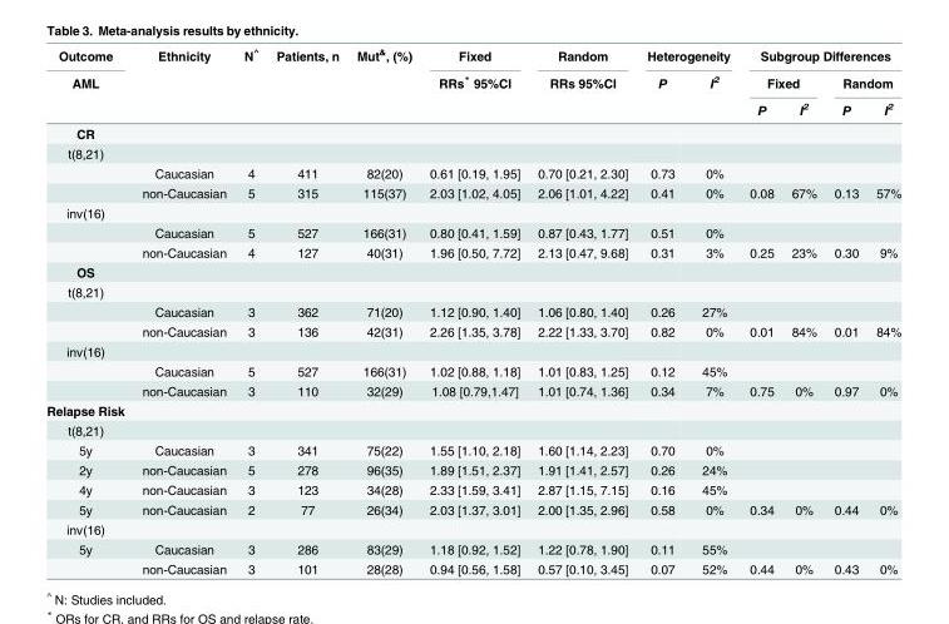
<table><thead><tr><td rowspan="3">Outcome AML</td><td rowspan="3">Ethnicity</td><td rowspan="3">N<sup>^</sup></td><td rowspan="3">Patients, n</td><td rowspan="3">Mut<sup>&amp;</sup>, (%)</td><td rowspan="3">Fixed RRs* 95%CI</td><td rowspan="3">Random RRs 95%CI</td><td colspan="2">Heterogeneity</td><td colspan="4">Subgroup Differences</td></tr><tr><td rowspan="2">P</td><td rowspan="2">I<sup>2</sup></td><td colspan="2">Fixed</td><td colspan="2">Random</td></tr><tr><td>P</td><td>I<sup>2</sup></td><td>P</td><td>I<sup>2</sup></td></tr></thead><tbody><tr><td colspan="13">CR</td></tr><tr><td colspan="13">t(8,21)</td></tr><tr><td></td><td>Caucasian</td><td>4</td><td>411</td><td>82(20)</td><td>0.61 [0.19, 1.95]</td><td>0.70 [0.21, 2.30]</td><td>0.73</td><td>0%</td><td></td><td></td><td></td><td></td></tr><tr><td></td><td>non-Caucasian</td><td>5</td><td>315</td><td>115(37)</td><td>2.03 [1.02, 4.05]</td><td>2.06 [1.01, 4.22]</td><td>0.41</td><td>0%</td><td>0.08</td><td>67%</td><td>0.13</td><td>57%</td></tr><tr><td colspan="13">inv(16)</td></tr><tr><td></td><td>Caucasian</td><td>5</td><td>527</td><td>166(31)</td><td>0.80 [0.41, 1.59]</td><td>0.87 [0.43, 1.77]</td><td>0.51</td><td>0%</td><td></td><td></td><td></td><td></td></tr><tr><td></td><td>non-Caucasian</td><td>4</td><td>127</td><td>40(31)</td><td>1.96 [0.50, 7.72]</td><td>2.13 [0.47, 9.68]</td><td>0.31</td><td>3%</td><td>0.25</td><td>23%</td><td>0.30</td><td>9%</td></tr><tr><td colspan="13">OS</td></tr><tr><td colspan="13">t(8,21)</td></tr><tr><td></td><td>Caucasian</td><td>3</td><td>362</td><td>71(20)</td><td>1.12 [0.90, 1.40]</td><td>1.06 [0.80, 1.40]</td><td>0.26</td><td>27%</td><td></td><td></td><td></td><td></td></tr><tr><td></td><td>non-Caucasian</td><td>3</td><td>136</td><td>42(31)</td><td>2.26 [1.35, 3.78]</td><td>2.22 [1.33, 3.70]</td><td>0.82</td><td>0%</td><td>0.01</td><td>84%</td><td>0.01</td><td>84%</td></tr><tr><td colspan="13">inv(16)</td></tr><tr><td></td><td>Caucasian</td><td>5</td><td>527</td><td>166(31)</td><td>1.02 [0.88, 1.18]</td><td>1.01 [0.83, 1.25]</td><td>0.12</td><td>45%</td><td></td><td></td><td></td><td></td></tr><tr><td></td><td>non-Caucasian</td><td>3</td><td>110</td><td>32(29)</td><td>1.08 [0.79,1.47]</td><td>1.01 [0.74, 1.36]</td><td>0.34</td><td>7%</td><td>0.75</td><td>0%</td><td>0.97</td><td>0%</td></tr><tr><td colspan="13">Relapse Risk</td></tr><tr><td colspan="13">t(8,21)</td></tr><tr><td>5y</td><td>Caucasian</td><td>3</td><td>341</td><td>75(22)</td><td>1.55 [1.10, 2.18]</td><td>1.60 [1.14, 2.23]</td><td>0.70</td><td>0%</td><td></td><td></td><td></td><td></td></tr><tr><td>2y</td><td>non-Caucasian</td><td>5</td><td>278</td><td>96(35)</td><td>1.89 [1.51, 2.37]</td><td>1.91 [1.41, 2.57]</td><td>0.26</td><td>24%</td><td></td><td></td><td></td><td></td></tr><tr><td>4y</td><td>non-Caucasian</td><td>3</td><td>123</td><td>34(28)</td><td>2.33 [1.59, 3.41]</td><td>2.87 [1.15, 7.15]</td><td>0.16</td><td>45%</td><td></td><td></td><td></td><td></td></tr><tr><td>5y</td><td>non-Caucasian</td><td>2</td><td>77</td><td>26(34)</td><td>2.03 [1.37, 3.01]</td><td>2.00 [1.35, 2.96]</td><td>0.58</td><td>0%</td><td>0.34</td><td>0%</td><td>0.44</td><td>0%</td></tr><tr><td colspan="13">inv(16)</td></tr><tr><td rowspan="2">5y</td><td>Caucasian</td><td>3</td><td>286</td><td>83(29)</td><td>1.18 [0.92, 1.52]</td><td>1.22 [0.78, 1.90]</td><td>0.11</td><td>55%</td><td></td><td></td><td></td><td></td></tr><tr><td>non-Caucasian</td><td>3</td><td>101</td><td>28(28)</td><td>0.94 [0.56, 1.58]</td><td>0.57 [0.10, 3.45]</td><td>0.07</td><td>52%</td><td>0.44</td><td>0%</td><td>0.43</td><td>0%</td></tr></tbody></table>